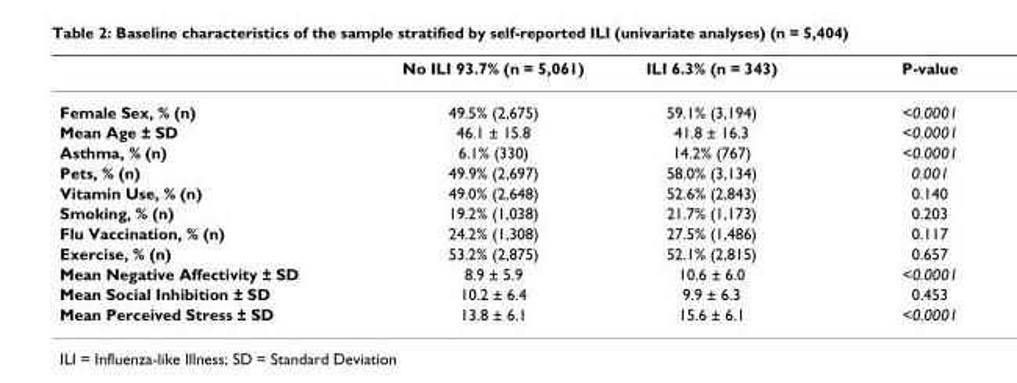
<table><thead><tr><td></td><td>No ILI 93.7% (n = 5,061)</td><td>ILI 6.3% (n = 343)</td><td>P-value</td></tr></thead><tbody><tr><td>Female Sex, % (n)</td><td>49.5% (2,675)</td><td>59.1% (3,194)</td><td>&lt;0.0001</td></tr><tr><td>Mean Age ± SD</td><td>46.1 ± 15.8</td><td>41.8 ± 16.3</td><td>&lt;0.0001</td></tr><tr><td>Asthma, % (n)</td><td>6.1% (330)</td><td>14.2% (767)</td><td>&lt;0.0001</td></tr><tr><td>Pets, % (n)</td><td>49.9% (2,697)</td><td>58.0% (3,134)</td><td>0.001</td></tr><tr><td>Vitamin Use, % (n)</td><td>49.0% (2,648)</td><td>52.6% (2,843)</td><td>0.140</td></tr><tr><td>Smoking, % (n)</td><td>19.2% (1,038)</td><td>21.7% (1,173)</td><td>0.203</td></tr><tr><td>Flu Vaccination, % (n)</td><td>24.2% (1,308)</td><td>27.5% (1,486)</td><td>0.117</td></tr><tr><td>Exercise, % (n)</td><td>53.2% (2,875)</td><td>52.1% (2,815)</td><td>0.657</td></tr><tr><td>Mean Negative Affectivity ± SD</td><td>8.9 ± 5.9</td><td>10.6 ± 6.0</td><td>&lt;0.0001</td></tr><tr><td>Mean Social Inhibition ± SD</td><td>10.2 ± 6.4</td><td>9.9 ± 6.3</td><td>0.453</td></tr><tr><td>Mean Perceived Stress ± SD</td><td>13.8 ± 6.1</td><td>15.6 ± 6.1</td><td>&lt;0.0001</td></tr></tbody></table>